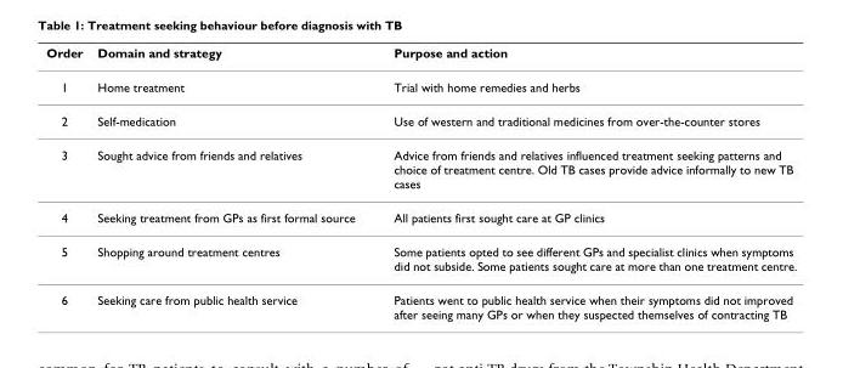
<table><thead><tr><td>Order</td><td>Domain and strategy</td><td>Purpose and action</td></tr></thead><tbody><tr><td>1</td><td>Home treatment</td><td>Trial with home remedies and herbs</td></tr><tr><td>2</td><td>Self-medication</td><td>Use of western and traditional medicines from over-the-counter stores</td></tr><tr><td>3</td><td>Sought advice from friends and relatives</td><td>Advice from friends and relatives influenced treatment seeking patterns and choice of treatment centre. Old TB cases provide advice informally to new TB cases</td></tr><tr><td>4</td><td>Seeking treatment from GPs as first formal source</td><td>All patients first sought care at GP clinics</td></tr><tr><td>5</td><td>Shopping around treatment centres</td><td>Some patients opted to see different GPs and specialist clinics when symptoms did not subside. Some patients sought care at more than one treatment centre.</td></tr><tr><td>6</td><td>Seeking care from public health service</td><td>Patients went to public health service when their symptoms did not improved after seeing many GPs or when they suspected themselves of contracting TB</td></tr></tbody></table>